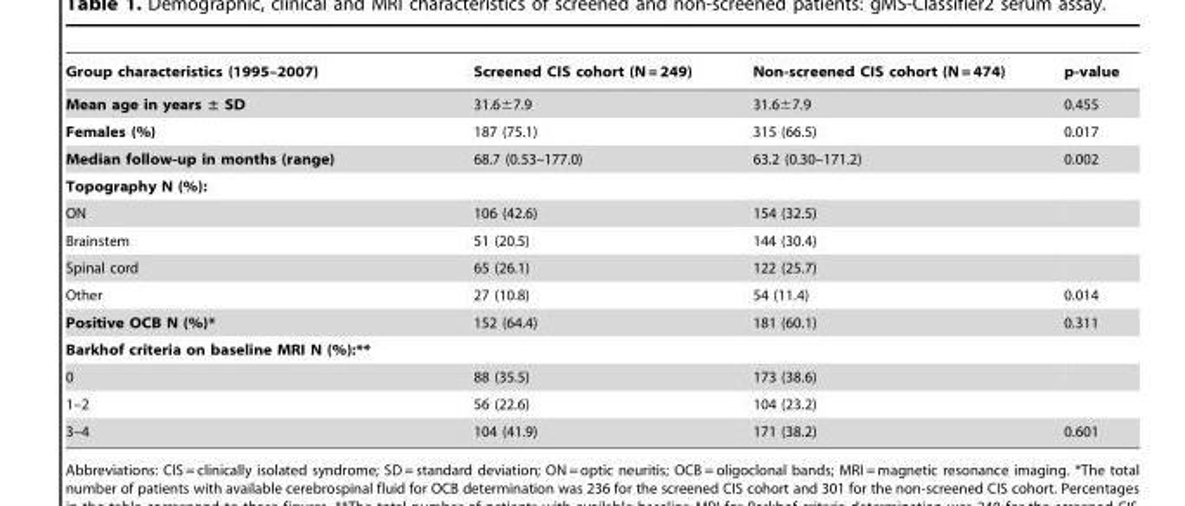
<table><thead><tr><td>Group characteristics (1995–2007)</td><td>Screened CIS cohort (N = 249)</td><td>Non-screened CIS cohort (N = 474)</td><td>p-value</td></tr></thead><tbody><tr><td>Mean age in years ± SD</td><td>31.6±7.9</td><td>31.6±7.9</td><td>0.455</td></tr><tr><td>Females (%)</td><td>187 (75.1)</td><td>315 (66.5)</td><td>0.017</td></tr><tr><td>Median follow-up in months (range)</td><td>68.7 (0.53–177.0)</td><td>63.2 (0.30–171.2)</td><td>0.002</td></tr><tr><td colspan="4">Topography N (%):</td></tr><tr><td>ON</td><td>106 (42.6)</td><td>154 (32.5)</td><td></td></tr><tr><td>Brainstem</td><td>51 (20.5)</td><td>144 (30.4)</td><td></td></tr><tr><td>Spinal cord</td><td>65 (26.1)</td><td>122 (25.7)</td><td></td></tr><tr><td>Other</td><td>27 (10.8)</td><td>54 (11.4)</td><td>0.014</td></tr><tr><td>Positive OCB N (%)*</td><td>152 (64.4)</td><td>181 (60.1)</td><td>0.311</td></tr><tr><td colspan="4">Barkhof criteria on baseline MRI N (%):**</td></tr><tr><td>0</td><td>88 (35.5)</td><td>173 (38.6)</td><td></td></tr><tr><td>1–2</td><td>56 (22.6)</td><td>104 (23.2)</td><td></td></tr><tr><td>3–4</td><td>104 (41.9)</td><td>171 (38.2)</td><td>0.601</td></tr></tbody></table>